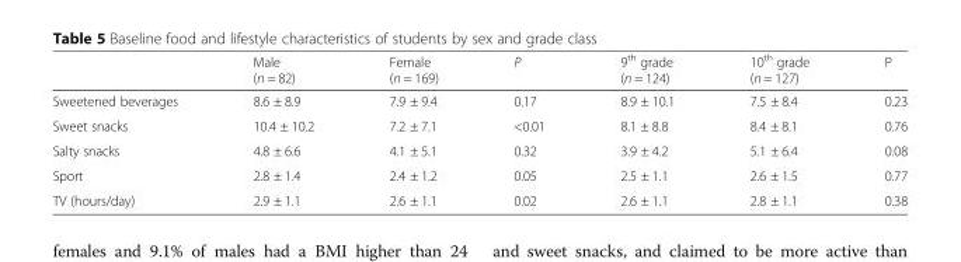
<table><thead><tr><td></td><td>Male (n = 82)</td><td>Female (n = 169)</td><td>P</td><td>9<sup>th</sup> grade (n = 124)</td><td>10<sup>th</sup> grade (n = 127)</td><td>P</td></tr></thead><tbody><tr><td>Sweetened beverages</td><td>8.6 ± 8.9</td><td>7.9 ± 9.4</td><td>0.17</td><td>8.9 ± 10.1</td><td>7.5 ± 8.4</td><td>0.23</td></tr><tr><td>Sweet snacks</td><td>10.4 ± 10.2</td><td>7.2 ± 7.1</td><td>&lt;0.01</td><td>8.1 ± 8.8</td><td>8.4 ± 8.1</td><td>0.76</td></tr><tr><td>Salty snacks</td><td>4.8 ± 6.6</td><td>4.1 ± 5.1</td><td>0.32</td><td>3.9 ± 4.2</td><td>5.1 ± 6.4</td><td>0.08</td></tr><tr><td>Sport</td><td>2.8 ± 1.4</td><td>2.4 ± 1.2</td><td>0.05</td><td>2.5 ± 1.1</td><td>2.6 ± 1.5</td><td>0.77</td></tr><tr><td>TV (hours/day)</td><td>2.9 ± 1.1</td><td>2.6 ± 1.1</td><td>0.02</td><td>2.6 ± 1.1</td><td>2.8 ± 1.1</td><td>0.38</td></tr></tbody></table>